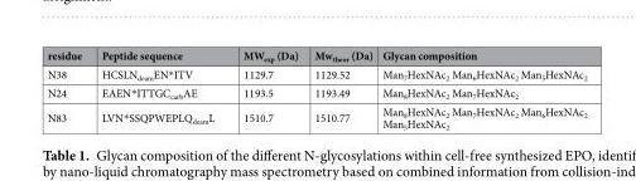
<table><thead><tr><td>residue</td><td>Peptide sequence</td><td>MW<sub>exp</sub> (Da)</td><td>Mw<sub>theor</sub> (Da)</td><td>Glycan composition</td></tr></thead><tbody><tr><td>N38</td><td>HCSLN<sub>deam</sub>EN*ITV</td><td>1129.7</td><td>1129.52</td><td>Man<sub>7</sub>HexNAc<sub>2</sub> Man<sub>6</sub>HexNAc<sub>2</sub> Man<sub>5</sub>HexNAc<sub>2</sub></td></tr><tr><td>N24</td><td>EAEN*ITTGC<sub>carb</sub>AE</td><td>1193.5</td><td>1193.49</td><td>Man<sub>8</sub>HexNAc<sub>2</sub> Man<sub>7</sub>HexNAc<sub>2</sub></td></tr><tr><td>N83</td><td>LVN*SSQPWEPLQ<sub>deam</sub>L</td><td>1510.7</td><td>1510.77</td><td>Man<sub>8</sub>HexNAc<sub>2</sub> Man<sub>7</sub>HexNAc<sub>2</sub> Man<sub>6</sub>HexNAc<sub>2</sub> Man<sub>5</sub>HexNAc<sub>2</sub></td></tr></tbody></table>